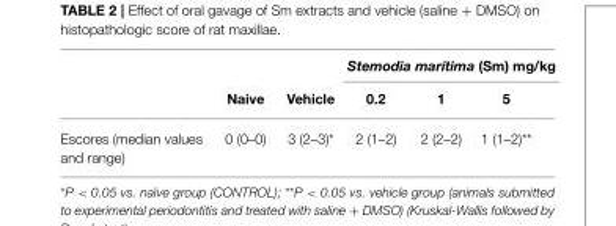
<table><thead><tr><td rowspan="2"></td><td rowspan="2">Naive</td><td rowspan="2">Vehicle</td><td colspan="3">Stemodia marítima (Sm) mg/kg</td></tr><tr><td>0.2</td><td>1</td><td>5</td></tr></thead><tbody><tr><td>Escores (median values and range)</td><td>0 (0–0)</td><td>3 (2–3)*</td><td>2 (1–2)</td><td>2 (2–2)</td><td>1 (1–2)**</td></tr></tbody></table>